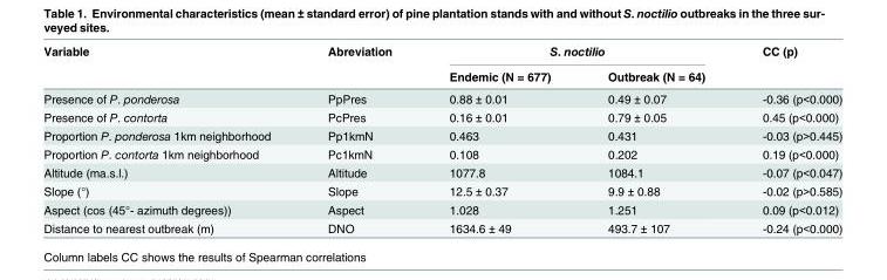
<table><thead><tr><td rowspan="2">Variable</td><td rowspan="2">Abreviation</td><td colspan="2">S. noctilio</td><td rowspan="2">CC (p)</td></tr><tr><td>Endemic (N = 677)</td><td>Outbreak (N = 64)</td></tr></thead><tbody><tr><td>Presence of P. ponderosa</td><td>PpPres</td><td>0.88 ± 0.01</td><td>0.49 ± 0.07</td><td>-0.36 (p&lt;0.000)</td></tr><tr><td>Presence of P. contorta</td><td>PcPres</td><td>0.16 ± 0.01</td><td>0.79 ± 0.05</td><td>0.45 (p&lt;0.000)</td></tr><tr><td>Proportion P. ponderosa 1km neighborhood</td><td>Pp1kmN</td><td>0.463</td><td>0.431</td><td>-0.03 (p&gt;0.445)</td></tr><tr><td>Proportion P. contorta 1km neighborhood</td><td>Pc1kmN</td><td>0.108</td><td>0.202</td><td>0.19 (p&lt;0.000)</td></tr><tr><td>Altitude (ma.s.l.)</td><td>Altitude</td><td>1077.8</td><td>1084.1</td><td>-0.07 (p&lt;0.047)</td></tr><tr><td>Slope (°)</td><td>Slope</td><td>12.5 ± 0.37</td><td>9.9 ± 0.88</td><td>-0.02 (p&gt;0.585)</td></tr><tr><td>Aspect (cos (45°- azimuth degrees))</td><td>Aspect</td><td>1.028</td><td>1.251</td><td>0.09 (p&lt;0.012)</td></tr><tr><td>Distance to nearest outbreak (m)</td><td>DNO</td><td>1634.6 ± 49</td><td>493.7 ± 107</td><td>-0.24 (p&lt;0.000)</td></tr></tbody></table>